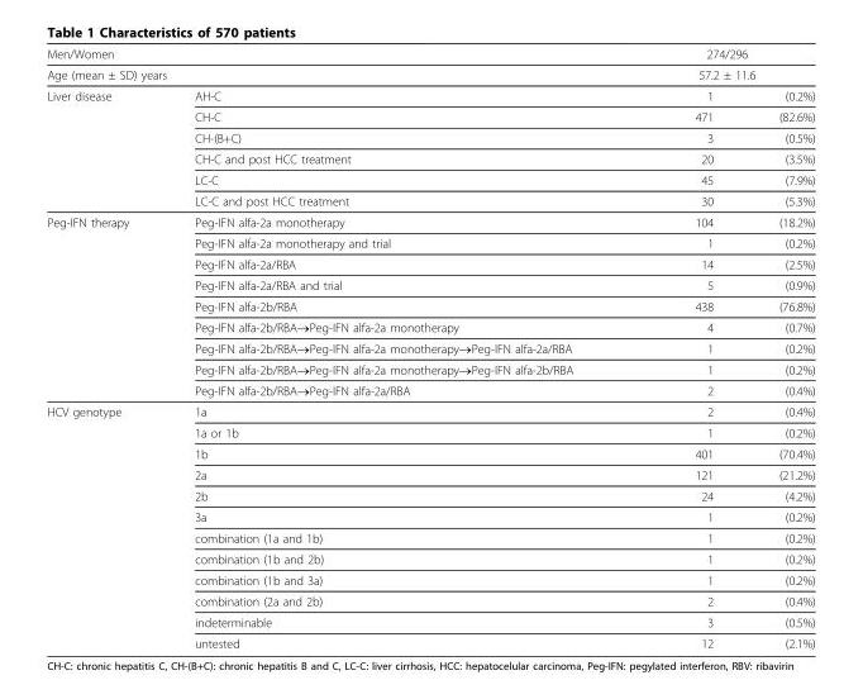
<table><thead><tr><td>Men/Women</td><td></td><td rowspan="2" colspan="2">274/296 57.2 ± 11.6</td></tr><tr><td colspan="2">Age (mean ± SD) years</td></tr><tr><td>Liver disease</td><td>AH-C</td><td>1</td><td>(0.2%)</td></tr></thead><tbody><tr><td></td><td>CH-C</td><td>471</td><td>(82.6%)</td></tr><tr><td></td><td>CH-(B+C)</td><td>3</td><td>(0.5%)</td></tr><tr><td></td><td>CH-C and post HCC treatment</td><td>20</td><td>(3.5%)</td></tr><tr><td></td><td>LC-C</td><td>45</td><td>(7.9%)</td></tr><tr><td></td><td>LC-C and post HCC treatment</td><td>30</td><td>(5.3%)</td></tr><tr><td rowspan="9">Peg-IFN therapy</td><td>Peg-IFN alfa-2a monotherapy</td><td>104</td><td>(18.2%)</td></tr><tr><td>Peg-IFN alfa-2a monotherapy and trial</td><td>1</td><td>(0.2%)</td></tr><tr><td>Peg-IFN alfa-2a/RBA</td><td>14</td><td>(2.5%)</td></tr><tr><td>Peg-IFN alfa-2a/RBA and trial</td><td>5</td><td>(0.9%)</td></tr><tr><td>Peg-IFN alfa-2b/RBA</td><td>438</td><td>(76.8%)</td></tr><tr><td>Peg-IFN alfa-2b/RBA→Peg-IFN alfa-2a monotherapy</td><td>4</td><td>(0.7%)</td></tr><tr><td>Peg-IFN alfa-2b/RBA→Peg-IFN alfa-2a monotherapy→Peg-IFN alfa-2a/RBA</td><td>1</td><td>(0.2%)</td></tr><tr><td>Peg-IFN alfa-2b/RBA→Peg-IFN alfa-2a monotherapy→Peg-IFN alfa-2b/RBA</td><td>1</td><td>(0.2%)</td></tr><tr><td>Peg-IFN alfa-2b/RBA→Peg-IFN alfa-2a/RBA</td><td>2</td><td>(0.4%)</td></tr><tr><td rowspan="12">HCV genotype</td><td>1a</td><td>2</td><td>(0.4%)</td></tr><tr><td>1a or 1b</td><td>1</td><td>(0.2%)</td></tr><tr><td>1b</td><td>401</td><td>(70.4%)</td></tr><tr><td>2a</td><td>121</td><td>(21.2%)</td></tr><tr><td>2b</td><td>24</td><td>(4.2%)</td></tr><tr><td>3a</td><td>1</td><td>(0.2%)</td></tr><tr><td>combination (1a and 1b)</td><td>1</td><td>(0.2%)</td></tr><tr><td>combination (1b and 2b)</td><td>1</td><td>(0.2%)</td></tr><tr><td>combination (1b and 3a)</td><td>1</td><td>(0.2%)</td></tr><tr><td>combination (2a and 2b)</td><td>2</td><td>(0.4%)</td></tr><tr><td>indeterminable</td><td>3</td><td>(0.5%)</td></tr><tr><td>untested</td><td>12</td><td>(2.1%)</td></tr></tbody></table>